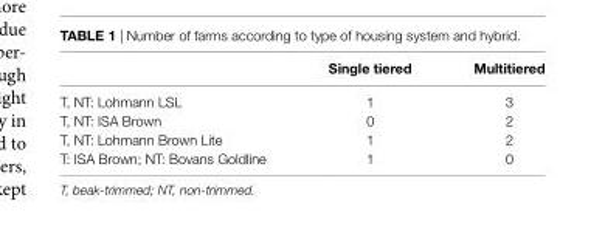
<table><thead><tr><td></td><td>single tiered</td><td>Multitiered</td></tr></thead><tbody><tr><td>T, NT: Lohmann LSL</td><td>1</td><td>3</td></tr><tr><td>T, NT: ISA Brown</td><td>0</td><td>2</td></tr><tr><td>T, NT: Lohmann Brown Lite</td><td>1</td><td>2</td></tr><tr><td>T: ISA Brown; NT: Bovans Goldline</td><td>1</td><td>0</td></tr></tbody></table>